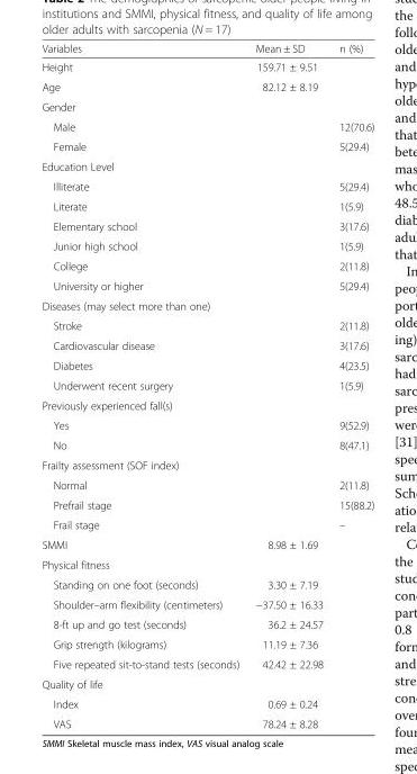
<table><thead><tr><td>Variables</td><td>Mean ± SD</td><td>n (%)</td></tr></thead><tbody><tr><td>Height</td><td>159.71 ± 9.51</td><td></td></tr><tr><td>Age</td><td>82.12 ± 8.19</td><td></td></tr><tr><td colspan="3">Gender</td></tr><tr><td>Male</td><td></td><td>12(70.6)</td></tr><tr><td>Female</td><td></td><td>5(29.4)</td></tr><tr><td colspan="3">Education Level</td></tr><tr><td>Illiterate</td><td></td><td>5(29.4)</td></tr><tr><td>Literate</td><td></td><td>1(5.9)</td></tr><tr><td>Elementary school</td><td></td><td>3(17.6)</td></tr><tr><td>Junior high school</td><td></td><td>1(5.9)</td></tr><tr><td>College</td><td></td><td>2(11.8)</td></tr><tr><td>University or higher</td><td></td><td>5(29.4)</td></tr><tr><td colspan="3">Diseases (may select more than one)</td></tr><tr><td>Stroke</td><td></td><td>2(11.8)</td></tr><tr><td>Cardiovascular disease</td><td></td><td>3(17.6)</td></tr><tr><td>Diabetes</td><td></td><td>4(23.5)</td></tr><tr><td>Underwent recent surgery</td><td></td><td>1(5.9)</td></tr><tr><td colspan="3">Previously experienced fall(s)</td></tr><tr><td>Yes</td><td></td><td>9(52.9)</td></tr><tr><td>No</td><td></td><td>8(47.1)</td></tr><tr><td colspan="3">Frailty assessment (SOF index)</td></tr><tr><td>Normal</td><td></td><td>2(11.8)</td></tr><tr><td>Prefrail stage</td><td></td><td>15(88.2)</td></tr><tr><td>Frail stage</td><td></td><td>–</td></tr><tr><td>SMMI</td><td>8.98 ± 1.69</td><td></td></tr><tr><td colspan="3">Physical fitness</td></tr><tr><td>Standing on one foot (seconds)</td><td>3.30 ± 7.19</td><td></td></tr><tr><td>Shoulder–arm flexibility (centimeters)</td><td>−37.50 ± 16.33</td><td></td></tr><tr><td>8-ft up and go test (seconds)</td><td>36.2 ± 24.57</td><td></td></tr><tr><td>Grip strength (kilograms)</td><td>11.19 ± 7.36</td><td></td></tr><tr><td>Five repeated sit-to-stand tests (seconds)</td><td>42.42 ± 22.98</td><td></td></tr><tr><td colspan="3">Quality of life</td></tr><tr><td>Index</td><td>0.69 ± 0.24</td><td></td></tr><tr><td>VAS</td><td>78.24 ± 8.28</td><td></td></tr></tbody></table>